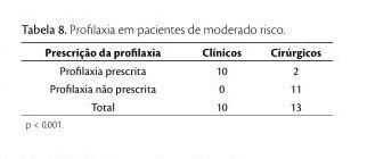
<table><thead><tr><td>Prescrição da profilaxia</td><td>Clínicos</td><td>Cirúrgicos</td></tr></thead><tbody><tr><td>Profilaxia prescrita</td><td>10</td><td>2</td></tr><tr><td>Profilaxia não prescrita</td><td>0</td><td>11</td></tr><tr><td>Total</td><td>10</td><td>13</td></tr></tbody></table>